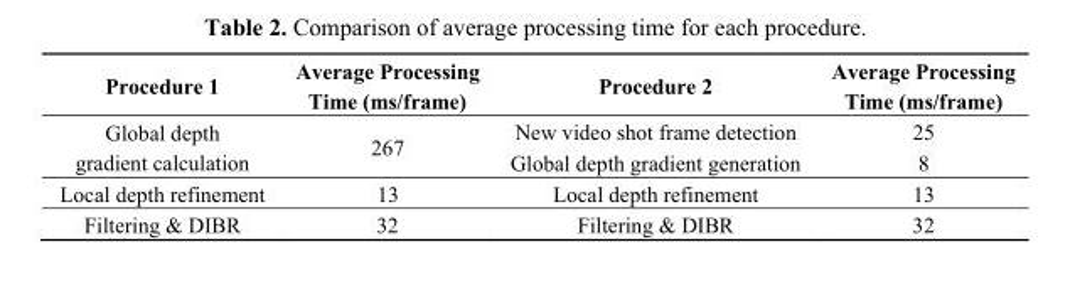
<table><thead><tr><td>Procedure 1</td><td>Average Processing Time (ms/frame)</td><td>Procedure 2</td><td>Average Processing Time (ms/frame)</td></tr></thead><tbody><tr><td rowspan="2">Global depth gradient calculation</td><td rowspan="2">267</td><td>New video shot frame detection</td><td>25</td></tr><tr><td>Global depth gradient generation</td><td>8</td></tr><tr><td>Local depth refinement</td><td>13</td><td>Local depth refinement</td><td>13</td></tr><tr><td>Filtering &amp; DIBR</td><td>32</td><td>Filtering &amp; DIBR</td><td>32</td></tr></tbody></table>